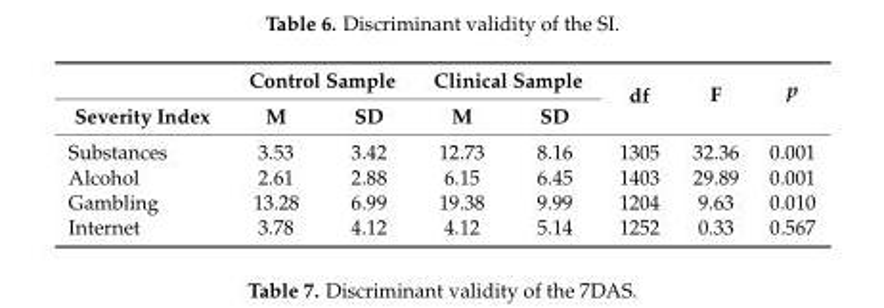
<table><thead><tr><td rowspan="2">Severity Index</td><td colspan="2">Control Sample</td><td colspan="2">Clinical Sample</td><td rowspan="2">df</td><td rowspan="2">F</td><td rowspan="2">p</td></tr><tr><td>M</td><td>SD</td><td>M</td><td>SD</td></tr></thead><tbody><tr><td>Substances</td><td>3.53</td><td>3.42</td><td>12.73</td><td>8.16</td><td>1305</td><td>32.36</td><td>0.001</td></tr><tr><td>Alcohol</td><td>2.61</td><td>2.88</td><td>6.15</td><td>6.45</td><td>1403</td><td>29.89</td><td>0.001</td></tr><tr><td>Gambling</td><td>13.28</td><td>6.99</td><td>19.38</td><td>9.99</td><td>1204</td><td>9.63</td><td>0.010</td></tr><tr><td>Internet</td><td>3.78</td><td>4.12</td><td>4.12</td><td>5.14</td><td>1252</td><td>0.33</td><td>0.567</td></tr></tbody></table>